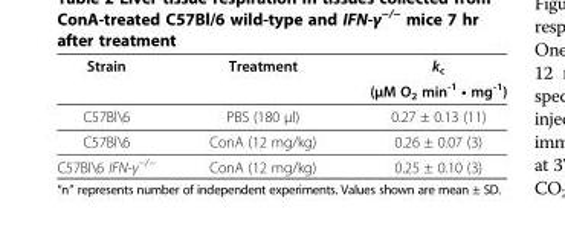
<table><thead><tr><td rowspan="2">Strain</td><td rowspan="2">Treatment</td><td rowspan="2">kc (μM O2 min-1 • mg-1)</td></tr><tr></tr></thead><tbody><tr><td>C57Bl\6</td><td>PBS (180 μl)</td><td>0.27 ± 0.13 (11)</td></tr><tr><td>C57Bl\6</td><td>ConA (12 mg/kg)</td><td>0.26 ± 0.07 (3)</td></tr><tr><td>C57Bl\6 IFN-γ<sup>−/−</sup></td><td>ConA (12 mg/kg)</td><td>0.25 ± 0.10 (3)</td></tr></tbody></table>